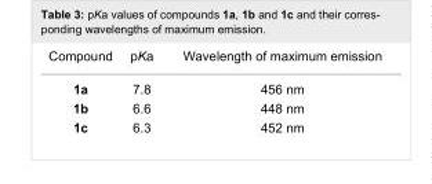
<table><tbody><tr><td>Compound</td><td>pKa</td><td>Wavelength of maximum emission</td></tr><tr><td>1a</td><td>7.8</td><td>456 nm</td></tr><tr><td>1b</td><td>6.6</td><td>448 nm</td></tr><tr><td>1c</td><td>6.3</td><td>452 nm</td></tr></tbody></table>